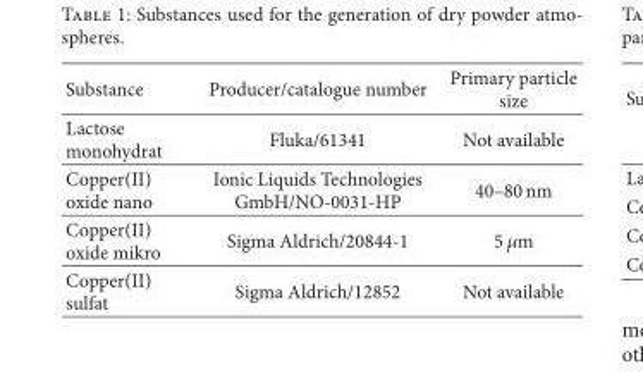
<table><thead><tr><td>Substance</td><td>Producer/catalogue number</td><td>Primary particle size</td></tr></thead><tbody><tr><td>Lactose monohydrat</td><td>Fluka/61341</td><td>Not available</td></tr><tr><td>Copper(II) oxide nano</td><td>Ionic Liquids Technologies GmbH/NO-0031-HP</td><td>40–80 nm</td></tr><tr><td>Copper(II) oxide mikro</td><td>Sigma Aldrich/20844-1</td><td>5 𝜇𝜇m</td></tr><tr><td>Copper(II) sulfat</td><td>Sigma Aldrich/12852</td><td>Not available</td></tr></tbody></table>